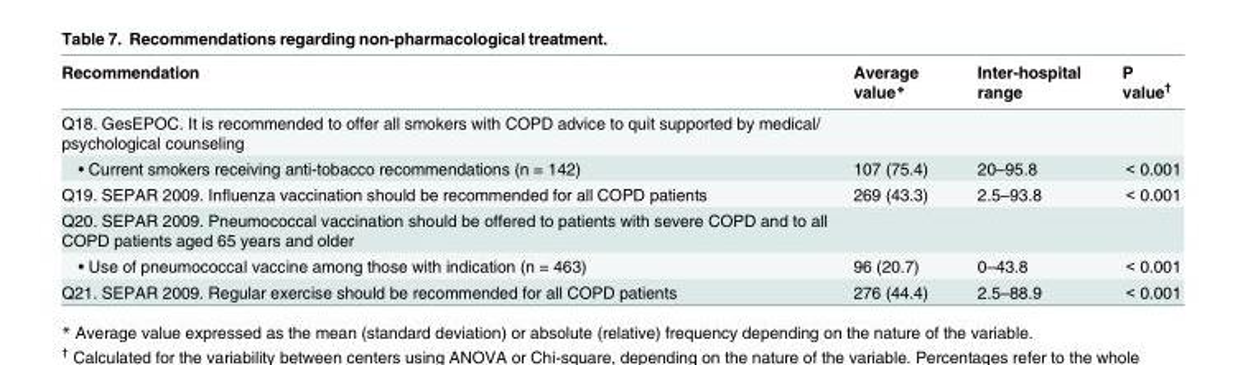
<table><thead><tr><td>Recommendation</td><td>Average value*</td><td>Inter-hospital range</td><td>P value<sup>†</sup></td></tr></thead><tbody><tr><td colspan="4">Q18. GesEPOC. It is recommended to offer all smokers with COPD advice to quit supported by medical/ psychological counseling</td></tr><tr><td>• Current smokers receiving anti-tobacco recommendations (n = 142)</td><td>107 (75.4)</td><td>20–95.8</td><td>&lt; 0.001</td></tr><tr><td>Q19. SEPAR 2009. Influenza vaccination should be recommended for all COPD patients</td><td>269 (43.3)</td><td>2.5–93.8</td><td>&lt; 0.001</td></tr><tr><td colspan="4">Q20. SEPAR 2009. Pneumococcal vaccination should be offered to patients with severe COPD and to all COPD patients aged 65 years and older</td></tr><tr><td>• Use of pneumococcal vaccine among those with indication (n = 463)</td><td>96 (20.7)</td><td>0–43.8</td><td>&lt; 0.001</td></tr><tr><td>Q21. SEPAR 2009. Regular exercise should be recommended for all COPD patients</td><td>276 (44.4)</td><td>2.5–88.9</td><td>&lt; 0.001</td></tr></tbody></table>